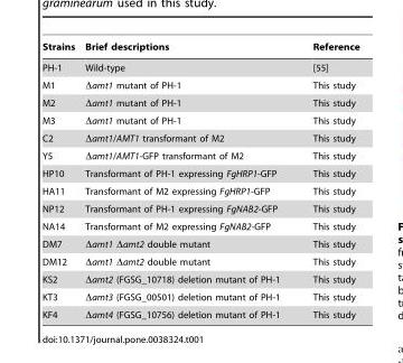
<table><thead><tr><td>Strains</td><td>Brief descriptions</td><td>Reference</td></tr></thead><tbody><tr><td>PH-1</td><td>Wild-type</td><td>[55]</td></tr><tr><td>M1</td><td>Δamt1 mutant of PH-1</td><td>This study</td></tr><tr><td>M2</td><td>Δamt1 mutant of PH-1</td><td>This study</td></tr><tr><td>M3</td><td>Δamt1 mutant of PH-1</td><td>This study</td></tr><tr><td>C2</td><td>Δamt1/AMT1 transformant of M2</td><td>This study</td></tr><tr><td>Y5</td><td>Δamt1/AMT1-GFP transformant of M2</td><td>This study</td></tr><tr><td>HP10</td><td>Transformant of PH-1 expressing FgHRP1-GFP</td><td>This study</td></tr><tr><td>HA11</td><td>Transformant of M2 expressing FgHRP1-GFP</td><td>This study</td></tr><tr><td>NP12</td><td>Transformant of PH-1 expressing FgNAB2-GFP</td><td>This study</td></tr><tr><td>NA14</td><td>Transformant of M2 expressing FgNAB2-GFP</td><td>This study</td></tr><tr><td>DM7</td><td>Δamt1 Δamt2 double mutant</td><td>This study</td></tr><tr><td>DM12</td><td>Δamt1 Δamt2 double mutant</td><td>This study</td></tr><tr><td>KS2</td><td>Δamt2 (FGSG_10718) deletion mutant of PH-1</td><td>This study</td></tr><tr><td>KT3</td><td>Δamt3 (FGSG_00501) deletion mutant of PH-1</td><td>This study</td></tr><tr><td>KF4</td><td>Δamt4 (FGSG_10756) deletion mutant of PH-1</td><td>This study</td></tr></tbody></table>